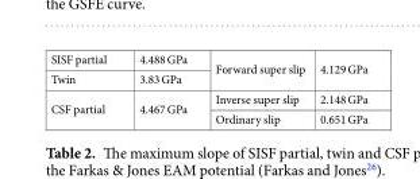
<table><tbody><tr><td>SISF partial</td><td>4.488 GPa</td><td rowspan="2">Forward super slip</td><td rowspan="2">4.129 GPa</td></tr><tr><td>Twin</td><td>3.83 GPa</td></tr><tr><td rowspan="2">CSF partial</td><td rowspan="2">4.467 GPa</td><td>Inverse super slip</td><td>2.148 GPa</td></tr><tr><td>Ordinary slip</td><td>0.651 GPa</td></tr></tbody></table>